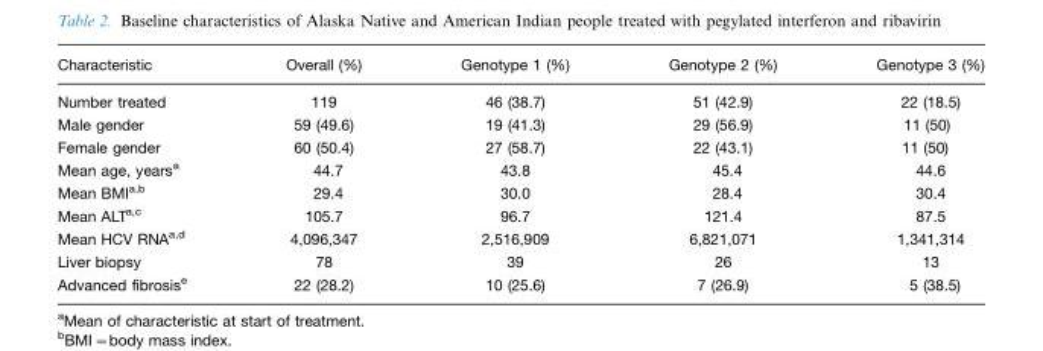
<table><thead><tr><td>Characteristic</td><td>Overall (%)</td><td>Genotype 1 (%)</td><td>Genotype 2 (%)</td><td>Genotype 3 (%)</td></tr></thead><tbody><tr><td>Number treated</td><td>119</td><td>46 (38.7)</td><td>51 (42.9)</td><td>22 (18.5)</td></tr><tr><td>Male gender</td><td>59 (49.6)</td><td>19 (41.3)</td><td>29 (56.9)</td><td>11 (50)</td></tr><tr><td>Female gender</td><td>60 (50.4)</td><td>27 (58.7)</td><td>22 (43.1)</td><td>11 (50)</td></tr><tr><td>Mean age, years<sup>a</sup></td><td>44.7</td><td>43.8</td><td>45.4</td><td>44.6</td></tr><tr><td>Mean BMI<sup>a</sup>,<sup>b</sup></td><td>29.4</td><td>30.0</td><td>28.4</td><td>30.4</td></tr><tr><td>Mean ALT<sup>a</sup>,<sup>c</sup></td><td>105.7</td><td>96.7</td><td>121.4</td><td>87.5</td></tr><tr><td>Mean HCV RNA<sup>a</sup>,<sup>d</sup></td><td>4,096,347</td><td>2,516,909</td><td>6,821,071</td><td>1,341,314</td></tr><tr><td>Liver biopsy</td><td>78</td><td>39</td><td>26</td><td>13</td></tr><tr><td>Advanced fibrosis<sup>e</sup></td><td>22 (28.2)</td><td>10 (25.6)</td><td>7 (26.9)</td><td>5 (38.5)</td></tr></tbody></table>